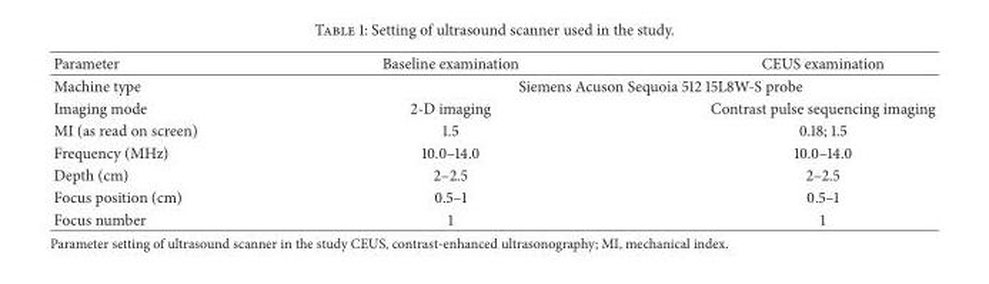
<table><thead><tr><td>Parameter</td><td>Baseline examination</td><td>CEUS examination</td></tr></thead><tbody><tr><td>Machine type</td><td colspan="2">Siemens Acuson Sequoia 512 15L8W-S probe</td></tr><tr><td>Imaging mode</td><td>2-D imaging</td><td>Contrast pulse sequencing imaging</td></tr><tr><td>MI (as read on screen)</td><td>1.5</td><td>0.18; 1.5</td></tr><tr><td>Frequency (MHz)</td><td>10.0–14.0</td><td>10.0–14.0</td></tr><tr><td>Depth (cm)</td><td>2–2.5</td><td>2–2.5</td></tr><tr><td>Focus position (cm)</td><td>0.5–1</td><td>0.5–1</td></tr><tr><td>Focus number</td><td>1</td><td>1</td></tr></tbody></table>